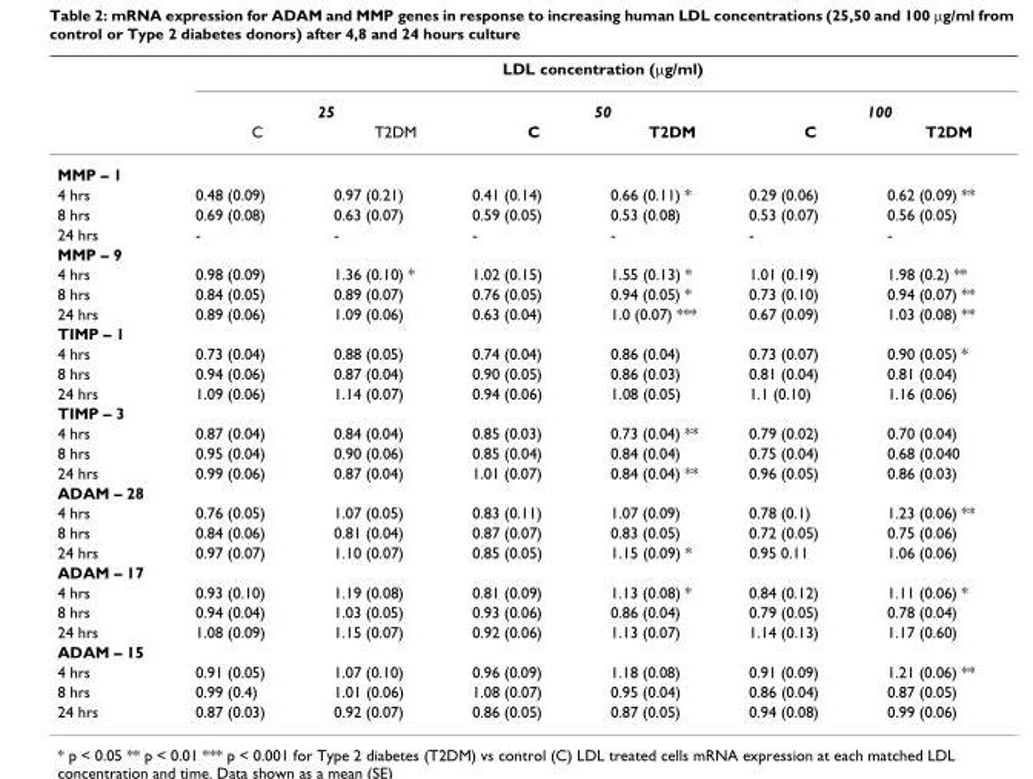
<table><thead><tr><td rowspan="3"></td><td colspan="6">LDL concentration (µg/ml)</td></tr><tr><td colspan="2">25</td><td colspan="2">50</td><td colspan="2">100</td></tr><tr><td>C</td><td>T2DM</td><td>C</td><td>T2DM</td><td>C</td><td>T2DM</td></tr></thead><tbody><tr><td colspan="7">MMP – 1</td></tr><tr><td>4 hrs</td><td>0.48 (0.09)</td><td>0.97 (0.21)</td><td>0.41 (0.14)</td><td>0.66 (0.11) *</td><td>0.29 (0.06)</td><td>0.62 (0.09) **</td></tr><tr><td>8 hrs</td><td>0.69 (0.08)</td><td>0.63 (0.07)</td><td>0.59 (0.05)</td><td>0.53 (0.08)</td><td>0.53 (0.07)</td><td>0.56 (0.05)</td></tr><tr><td>24 hrs</td><td>-</td><td>-</td><td>-</td><td>-</td><td>-</td><td>-</td></tr><tr><td colspan="7">MMP – 9</td></tr><tr><td>4 hrs</td><td>0.98 (0.09)</td><td>1.36 (0.10) *</td><td>1.02 (0.15)</td><td>1.55 (0.13) *</td><td>1.01 (0.19)</td><td>1.98 (0.2) **</td></tr><tr><td>8 hrs</td><td>0.84 (0.05)</td><td>0.89 (0.07)</td><td>0.76 (0.05)</td><td>0.94 (0.05) *</td><td>0.73 (0.10)</td><td>0.94 (0.07) **</td></tr><tr><td>24 hrs</td><td>0.89 (0.06)</td><td>1.09 (0.06)</td><td>0.63 (0.04)</td><td>1.0 (0.07) ***</td><td>0.67 (0.09)</td><td>1.03 (0.08) **</td></tr><tr><td colspan="7">TIMP – 1</td></tr><tr><td>4 hrs</td><td>0.73 (0.04)</td><td>0.88 (0.05)</td><td>0.74 (0.04)</td><td>0.86 (0.04)</td><td>0.73 (0.07)</td><td>0.90 (0.05) *</td></tr><tr><td>8 hrs</td><td>0.94 (0.06)</td><td>0.87 (0.04)</td><td>0.90 (0.05)</td><td>0.86 (0.03)</td><td>0.81 (0.04)</td><td>0.81 (0.04)</td></tr><tr><td>24 hrs</td><td>1.09 (0.06)</td><td>1.14 (0.07)</td><td>0.94 (0.06)</td><td>1.08 (0.05)</td><td>1.1 (0.10)</td><td>1.16 (0.06)</td></tr><tr><td colspan="7">TIMP – 3</td></tr><tr><td>4 hrs</td><td>0.87 (0.04)</td><td>0.84 (0.04)</td><td>0.85 (0.03)</td><td>0.73 (0.04) **</td><td>0.79 (0.02)</td><td>0.70 (0.04)</td></tr><tr><td>8 hrs</td><td>0.95 (0.04)</td><td>0.90 (0.06)</td><td>0.85 (0.04)</td><td>0.84 (0.04)</td><td>0.75 (0.04)</td><td>0.68 (0.040</td></tr><tr><td>24 hrs</td><td>0.99 (0.06)</td><td>0.87 (0.04)</td><td>1.01 (0.07)</td><td>0.84 (0.04) **</td><td>0.96 (0.05)</td><td>0.86 (0.03)</td></tr><tr><td colspan="7">ADAM – 28</td></tr><tr><td>4 hrs</td><td>0.76 (0.05)</td><td>1.07 (0.05)</td><td>0.83 (0.11)</td><td>1.07 (0.09)</td><td>0.78 (0.1)</td><td>1.23 (0.06) **</td></tr><tr><td>8 hrs</td><td>0.84 (0.06)</td><td>0.81 (0.04)</td><td>0.87 (0.07)</td><td>0.83 (0.05)</td><td>0.72 (0.05)</td><td>0.75 (0.06)</td></tr><tr><td>24 hrs</td><td>0.97 (0.07)</td><td>1.10 (0.07)</td><td>0.85 (0.05)</td><td>1.15 (0.09) *</td><td>0.95 0.11</td><td>1.06 (0.06)</td></tr><tr><td colspan="7">ADAM – 17</td></tr><tr><td>4 hrs</td><td>0.93 (0.10)</td><td>1.19 (0.08)</td><td>0.81 (0.09)</td><td>1.13 (0.08) *</td><td>0.84 (0.12)</td><td>1.11 (0.06) *</td></tr><tr><td>8 hrs</td><td>0.94 (0.04)</td><td>1.03 (0.05)</td><td>0.93 (0.06)</td><td>0.86 (0.04)</td><td>0.79 (0.05)</td><td>0.78 (0.04)</td></tr><tr><td>24 hrs</td><td>1.08 (0.09)</td><td>1.15 (0.07)</td><td>0.92 (0.06)</td><td>1.13 (0.07)</td><td>1.14 (0.13)</td><td>1.17 (0.60)</td></tr><tr><td colspan="7">ADAM – 15</td></tr><tr><td>4 hrs</td><td>0.91 (0.05)</td><td>1.07 (0.10)</td><td>0.96 (0.09)</td><td>1.18 (0.08)</td><td>0.91 (0.09)</td><td>1.21 (0.06) **</td></tr><tr><td>8 hrs</td><td>0.99 (0.4)</td><td>1.01 (0.06)</td><td>1.08 (0.07)</td><td>0.95 (0.04)</td><td>0.86 (0.04)</td><td>0.87 (0.05)</td></tr><tr><td>24 hrs</td><td>0.87 (0.03)</td><td>0.92 (0.07)</td><td>0.86 (0.05)</td><td>0.87 (0.05)</td><td>0.94 (0.08)</td><td>0.99 (0.06)</td></tr></tbody></table>